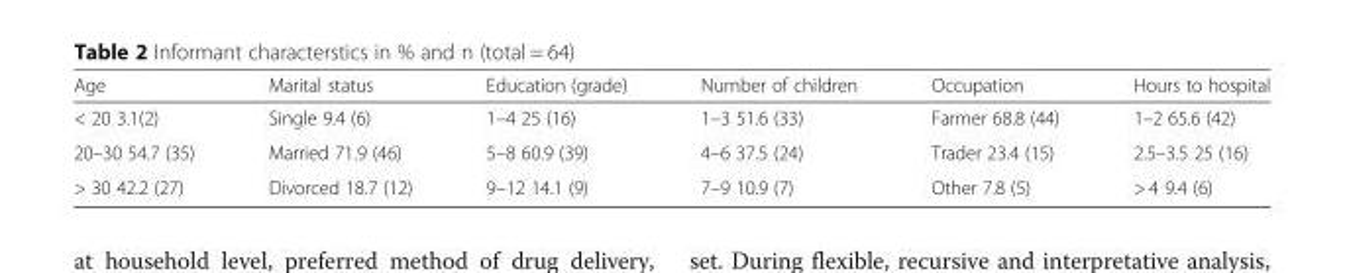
<table><thead><tr><td>Age</td><td>Marital status</td><td>Education (grade)</td><td>Number of children</td><td>Occupation</td><td>Hours to hospital</td></tr></thead><tbody><tr><td>&lt; 20 3.1(2)</td><td>Single 9.4 (6)</td><td>1–4 25 (16)</td><td>1–3 51.6 (33)</td><td>Farmer 68.8 (44)</td><td>1–2 65.6 (42)</td></tr><tr><td>20–30 54.7 (35)</td><td>Married 71.9 (46)</td><td>5–8 60.9 (39)</td><td>4–6 37.5 (24)</td><td>Trader 23.4 (15)</td><td>2.5–3.5 25 (16)</td></tr><tr><td>&gt; 30 42.2 (27)</td><td>Divorced 18.7 (12)</td><td>9–12 14.1 (9)</td><td>7–9 10.9 (7)</td><td>Other 7.8 (5)</td><td>&gt; 4 9.4 (6)</td></tr></tbody></table>